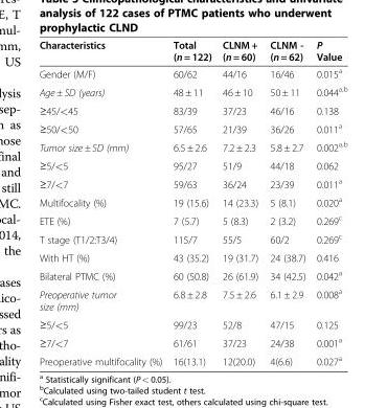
<table><thead><tr><td>Characteristics</td><td>Total (n = 122)</td><td>CLNM + (n = 60)</td><td>CLNM - (n = 62)</td><td>P Value</td></tr></thead><tbody><tr><td>Gender (M/F)</td><td>60/62</td><td>44/16</td><td>16/46</td><td>0.015<sup>a</sup></td></tr><tr><td>Age ± SD (years)</td><td>48 ± 11</td><td>46 ± 10</td><td>50 ± 11</td><td>0.044<sup>a,b</sup></td></tr><tr><td>≥45/&lt;45</td><td>83/39</td><td>37/23</td><td>46/16</td><td>0.138</td></tr><tr><td>≥50/&lt;50</td><td>57/65</td><td>21/39</td><td>36/26</td><td>0.011<sup>a</sup></td></tr><tr><td>Tumor size ± SD (mm)</td><td>6.5 ± 2.6</td><td>7.2 ± 2.3</td><td>5.8 ± 2.7</td><td>0.002<sup>a,b</sup></td></tr><tr><td>≥5/&lt;5</td><td>95/27</td><td>51/9</td><td>44/18</td><td>0.062</td></tr><tr><td>≥7/&lt;7</td><td>59/63</td><td>36/24</td><td>23/39</td><td>0.011<sup>a</sup></td></tr><tr><td>Multifocality (%)</td><td>19 (15.6)</td><td>14 (23.3)</td><td>5 (8.1)</td><td>0.020<sup>a</sup></td></tr><tr><td>ETE (%)</td><td>7 (5.7)</td><td>5 (8.3)</td><td>2 (3.2)</td><td>0.269<sup>c</sup></td></tr><tr><td>T stage (T1/2:T3/4)</td><td>115/7</td><td>55/5</td><td>60/2</td><td>0.269<sup>c</sup></td></tr><tr><td>With HT (%)</td><td>43 (35.2)</td><td>19 (31.7)</td><td>24 (38.7)</td><td>0.416</td></tr><tr><td>Bilateral PTMC (%)</td><td>60 (50.8)</td><td>26 (61.9)</td><td>34 (42.5)</td><td>0.042<sup>a</sup></td></tr><tr><td>Preoperative tumor size (mm)</td><td>6.8 ± 2.8</td><td>7.5 ± 2.6</td><td>6.1 ± 2.9</td><td>0.008<sup>a</sup></td></tr><tr><td>≥5/&lt;5</td><td>99/23</td><td>52/8</td><td>47/15</td><td>0.125</td></tr><tr><td>≥7/&lt;7</td><td>61/61</td><td>37/23</td><td>24/38</td><td>0.001<sup>a</sup></td></tr><tr><td>Preoperative multifocality (%)</td><td>16(13.1)</td><td>12(20.0)</td><td>4(6.6)</td><td>0.027<sup>a</sup></td></tr></tbody></table>